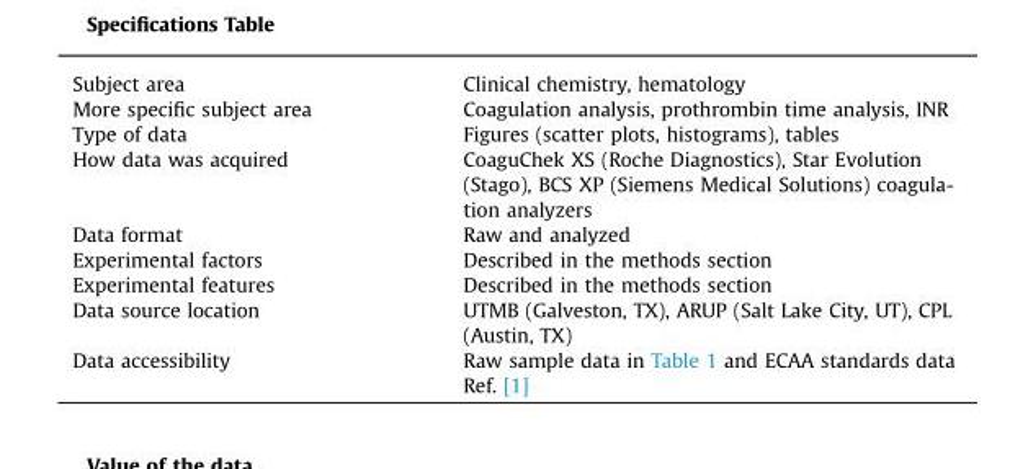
<table><tbody><tr><td>Subject area</td><td>Clinical chemistry, hematology</td></tr><tr><td>More specific subject area</td><td>Coagulation analysis, prothrombin time analysis, INR</td></tr><tr><td>Type of data</td><td>Figures (scatter plots, histograms), tables</td></tr><tr><td>How data was acquired</td><td>CoaguChek XS (Roche Diagnostics), Star Evolution (Stago), BCS XP (Siemens Medical Solutions) coagula- tion analyzers</td></tr><tr><td>Data format</td><td>Raw and analyzed</td></tr><tr><td>Experimental factors</td><td>Described in the methods section</td></tr><tr><td>Experimental features</td><td>Described in the methods section</td></tr><tr><td>Data source location</td><td>UTMB (Galveston, TX), ARUP (Salt Lake City, UT), CPL (Austin, TX)</td></tr><tr><td>Data accessibility</td><td>Raw sample data in Table 1 and ECAA standards data Ref. [1]</td></tr></tbody></table>